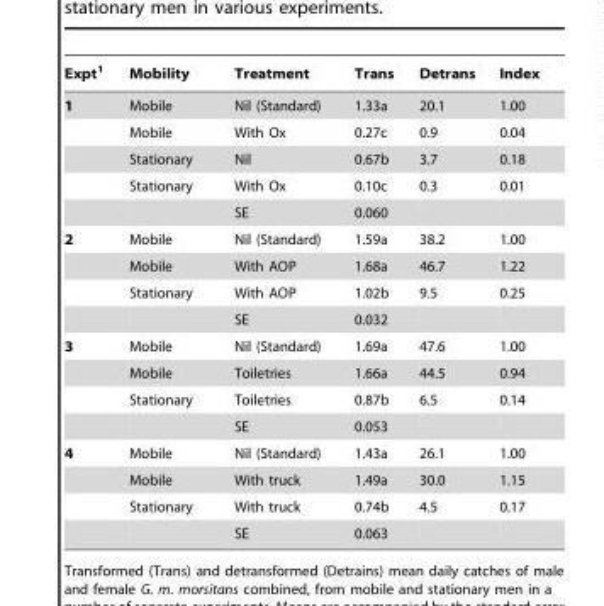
<table><thead><tr><td>Expt<sup>1</sup></td><td>Mobility</td><td>Treatment</td><td>Trans</td><td>Detrans</td><td>Index</td></tr></thead><tbody><tr><td rowspan="5">1</td><td>Mobile</td><td>Nil (Standard)</td><td>1.33a</td><td>20.1</td><td>1.00</td></tr><tr><td>Mobile</td><td>With Ox</td><td>0.27c</td><td>0.9</td><td>0.04</td></tr><tr><td>Stationary</td><td>Nil</td><td>0.67b</td><td>3.7</td><td>0.18</td></tr><tr><td>Stationary</td><td>With Ox</td><td>0.10c</td><td>0.3</td><td>0.01</td></tr><tr><td></td><td>SE</td><td>0.060</td><td></td><td></td></tr><tr><td rowspan="4">2</td><td>Mobile</td><td>Nil (Standard)</td><td>1.59a</td><td>38.2</td><td>1.00</td></tr><tr><td>Mobile</td><td>With AOP</td><td>1.68a</td><td>46.7</td><td>1.22</td></tr><tr><td>Stationary</td><td>With AOP</td><td>1.02b</td><td>9.5</td><td>0.25</td></tr><tr><td></td><td>SE</td><td>0.032</td><td></td><td></td></tr><tr><td rowspan="4">3</td><td>Mobile</td><td>Nil (Standard)</td><td>1.69a</td><td>47.6</td><td>1.00</td></tr><tr><td>Mobile</td><td>Toiletries</td><td>1.66a</td><td>44.5</td><td>0.94</td></tr><tr><td>Stationary</td><td>Toiletries</td><td>0.87b</td><td>6.5</td><td>0.14</td></tr><tr><td></td><td>SE</td><td>0.053</td><td></td><td></td></tr><tr><td rowspan="4">4</td><td>Mobile</td><td>Nil (Standard)</td><td>1.43a</td><td>26.1</td><td>1.00</td></tr><tr><td>Mobile</td><td>With truck</td><td>1.49a</td><td>30.0</td><td>1.15</td></tr><tr><td>Stationary</td><td>With truck</td><td>0.74b</td><td>4.5</td><td>0.17</td></tr><tr><td></td><td>SE</td><td>0.063</td><td></td><td></td></tr></tbody></table>